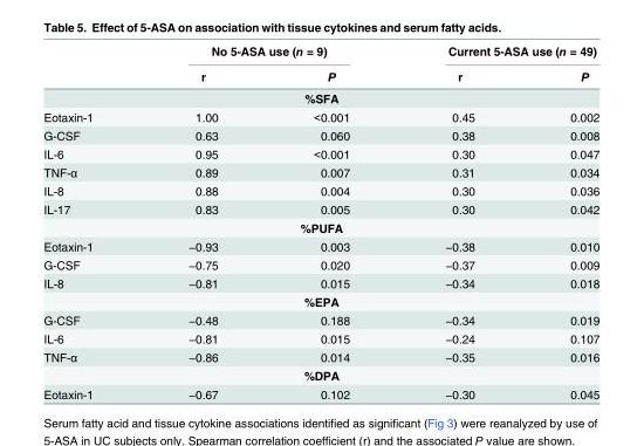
<table><thead><tr><td rowspan="2"></td><td colspan="2">No 5-ASA use (n = 9)</td><td colspan="2">Current 5-ASA use (n = 49)</td></tr><tr><td>r</td><td>P</td><td>r</td><td>P</td></tr></thead><tbody><tr><td colspan="5">%SFA</td></tr><tr><td>Eotaxin-1</td><td>1.00</td><td>&lt;0.001</td><td>0.45</td><td>0.002</td></tr><tr><td>G-CSF</td><td>0.63</td><td>0.060</td><td>0.38</td><td>0.008</td></tr><tr><td>IL-6</td><td>0.95</td><td>&lt;0.001</td><td>0.30</td><td>0.047</td></tr><tr><td>TNF-α</td><td>0.89</td><td>0.007</td><td>0.31</td><td>0.034</td></tr><tr><td>IL-8</td><td>0.88</td><td>0.004</td><td>0.30</td><td>0.036</td></tr><tr><td>IL-17</td><td>0.83</td><td>0.005</td><td>0.30</td><td>0.042</td></tr><tr><td colspan="5">%PUFA</td></tr><tr><td>Eotaxin-1</td><td>−0.93</td><td>0.003</td><td>−0.38</td><td>0.010</td></tr><tr><td>G-CSF</td><td>−0.75</td><td>0.020</td><td>−0.37</td><td>0.009</td></tr><tr><td>IL-8</td><td>−0.81</td><td>0.015</td><td>−0.34</td><td>0.018</td></tr><tr><td colspan="5">%EPA</td></tr><tr><td>G-CSF</td><td>−0.48</td><td>0.188</td><td>−0.34</td><td>0.019</td></tr><tr><td>IL-6</td><td>−0.81</td><td>0.015</td><td>−0.24</td><td>0.107</td></tr><tr><td>TNF-α</td><td>−0.86</td><td>0.014</td><td>−0.35</td><td>0.016</td></tr><tr><td colspan="5">%DPA</td></tr><tr><td>Eotaxin-1</td><td>−0.67</td><td>0.102</td><td>−0.30</td><td>0.045</td></tr></tbody></table>